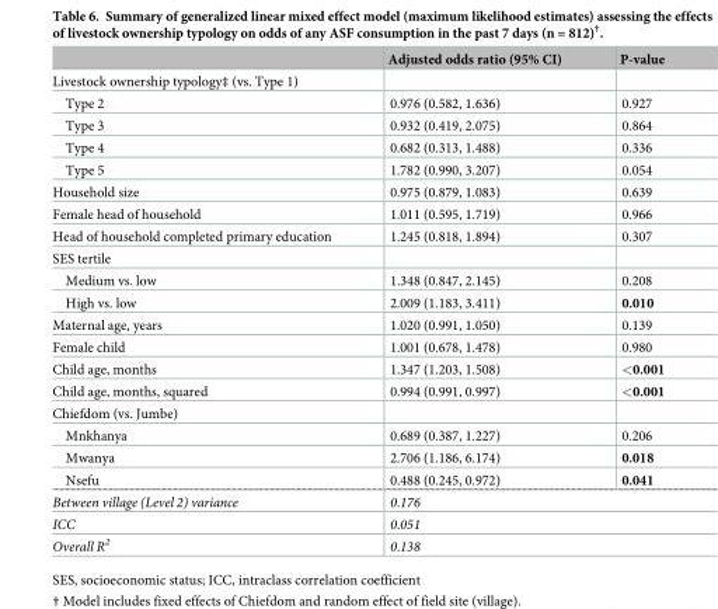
<table><thead><tr><td></td><td>Adjusted odds ratio (95% CI)</td><td>P-value</td></tr></thead><tbody><tr><td colspan="3">Livestock ownership typology‡ (vs. Type 1)</td></tr><tr><td>Type 2</td><td>0.976 (0.582, 1.636)</td><td>0.927</td></tr><tr><td>Type 3</td><td>0.932 (0.419, 2.075)</td><td>0.864</td></tr><tr><td>Type 4</td><td>0.682 (0.313, 1.488)</td><td>0.336</td></tr><tr><td>Type 5</td><td>1.782 (0.990, 3.207)</td><td>0.054</td></tr><tr><td>Household size</td><td>0.975 (0.879, 1.083)</td><td>0.639</td></tr><tr><td>Female head of household</td><td>1.011 (0.595, 1.719)</td><td>0.966</td></tr><tr><td>Head of household completed primary education</td><td>1.245 (0.818, 1.894)</td><td>0.307</td></tr><tr><td colspan="3">SES tertile</td></tr><tr><td>Medium vs. low</td><td>1.348 (0.847, 2.145)</td><td>0.208</td></tr><tr><td>High vs. low</td><td>2.009 (1.183, 3.411)</td><td>0.010</td></tr><tr><td>Maternal age, years</td><td>1.020 (0.991, 1.050)</td><td>0.139</td></tr><tr><td>Female child</td><td>1.001 (0.678, 1.478)</td><td>0.980</td></tr><tr><td>Child age, months</td><td>1.347 (1.203, 1.508)</td><td>&lt;0.001</td></tr><tr><td>Child age, months, squared</td><td>0.994 (0.991, 0.997)</td><td>&lt;0.001</td></tr><tr><td colspan="3">Chiefdom (vs. Jumbe)</td></tr><tr><td>Mnkhanya</td><td>0.689 (0.387, 1.227)</td><td>0.206</td></tr><tr><td>Mwanya</td><td>2.706 (1.186, 6.174)</td><td>0.018</td></tr><tr><td>Nsefu</td><td>0.488 (0.245, 0.972)</td><td>0.041</td></tr><tr><td>Between village (Level 2) variance</td><td colspan="2">0.176</td></tr><tr><td>ICC</td><td colspan="2">0.051</td></tr><tr><td>Overall R<sup>2</sup></td><td colspan="2">0.138</td></tr></tbody></table>